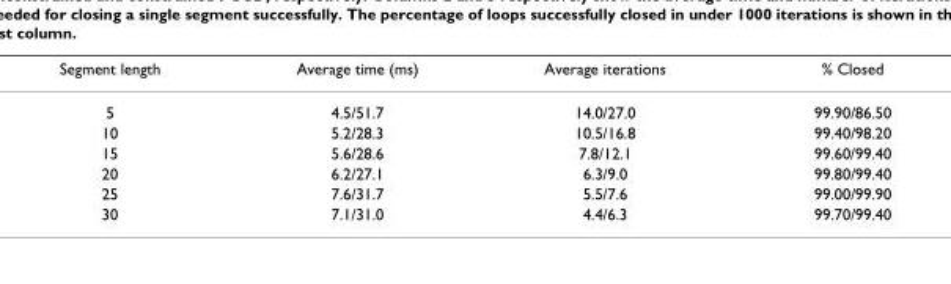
<table><thead><tr><td>Segment length</td><td>Average time (ms)</td><td>Average iterations</td><td>% Closed</td></tr></thead><tbody><tr><td>5</td><td>4.5/51.7</td><td>14.0/27.0</td><td>99.90/86.50</td></tr><tr><td>10</td><td>5.2/28.3</td><td>10.5/16.8</td><td>99.40/98.20</td></tr><tr><td>15</td><td>5.6/28.6</td><td>7.8/12.1</td><td>99.60/99.40</td></tr><tr><td>20</td><td>6.2/27.1</td><td>6.3/9.0</td><td>99.80/99.40</td></tr><tr><td>25</td><td>7.6/31.7</td><td>5.5/7.6</td><td>99.00/99.90</td></tr><tr><td>30</td><td>7.1/31.0</td><td>4.4/6.3</td><td>99.70/99.40</td></tr></tbody></table>